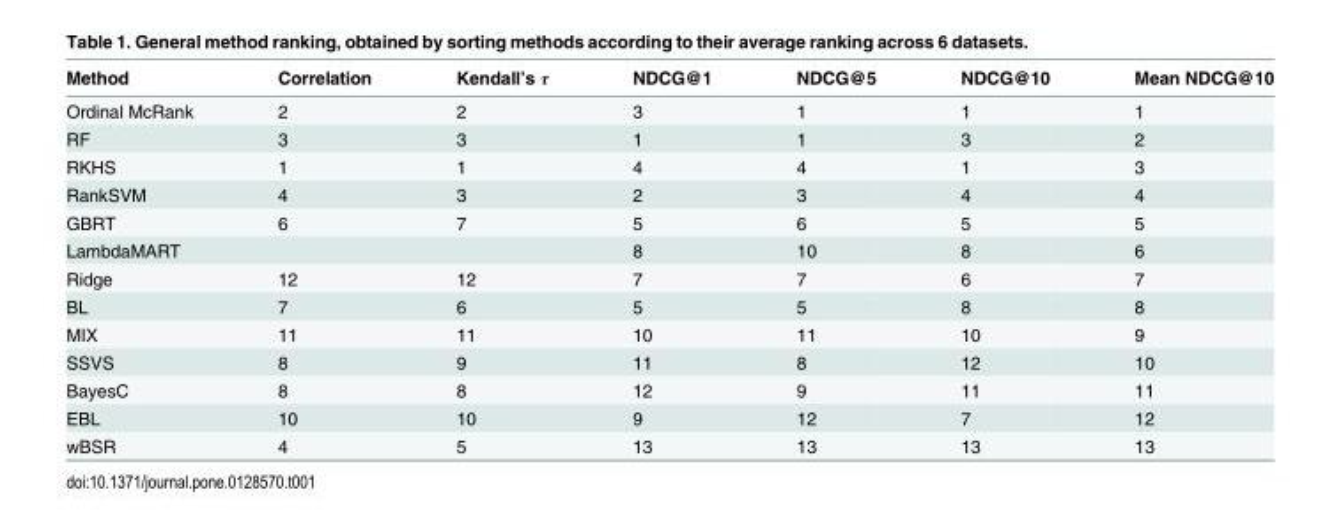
<table><thead><tr><td>Method</td><td>Correlation</td><td>Kendall’s τ</td><td>NDCG@1</td><td>NDCG@5</td><td>NDCG@10</td><td>Mean NDCG@10</td></tr></thead><tbody><tr><td>Ordinal McRank</td><td>2</td><td>2</td><td>3</td><td>1</td><td>1</td><td>1</td></tr><tr><td>RF</td><td>3</td><td>3</td><td>1</td><td>1</td><td>3</td><td>2</td></tr><tr><td>RKHS</td><td>1</td><td>1</td><td>4</td><td>4</td><td>1</td><td>3</td></tr><tr><td>RankSVM</td><td>4</td><td>3</td><td>2</td><td>3</td><td>4</td><td>4</td></tr><tr><td>GBRT</td><td>6</td><td>7</td><td>5</td><td>6</td><td>5</td><td>5</td></tr><tr><td>LambdaMART</td><td></td><td></td><td>8</td><td>10</td><td>8</td><td>6</td></tr><tr><td>Ridge</td><td>12</td><td>12</td><td>7</td><td>7</td><td>6</td><td>7</td></tr><tr><td>BL</td><td>7</td><td>6</td><td>5</td><td>5</td><td>8</td><td>8</td></tr><tr><td>MIX</td><td>11</td><td>11</td><td>10</td><td>11</td><td>10</td><td>9</td></tr><tr><td>SSVS</td><td>8</td><td>9</td><td>11</td><td>8</td><td>12</td><td>10</td></tr><tr><td>BayesC</td><td>8</td><td>8</td><td>12</td><td>9</td><td>11</td><td>11</td></tr><tr><td>EBL</td><td>10</td><td>10</td><td>9</td><td>12</td><td>7</td><td>12</td></tr><tr><td>wBSR</td><td>4</td><td>5</td><td>13</td><td>13</td><td>13</td><td>13</td></tr></tbody></table>